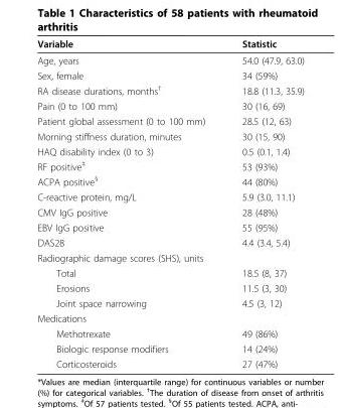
<table><thead><tr><td>Variable</td><td>Statistic</td></tr></thead><tbody><tr><td>Age, years</td><td>54.0 (47.9, 63.0)</td></tr><tr><td>Sex, female</td><td>34 (59%)</td></tr><tr><td>RA disease durations, months<sup>†</sup></td><td>18.8 (11.3, 35.9)</td></tr><tr><td>Pain (0 to 100 mm)</td><td>30 (16, 69)</td></tr><tr><td>Patient global assessment (0 to 100 mm)</td><td>28.5 (12, 63)</td></tr><tr><td>Morning stiffness duration, minutes</td><td>30 (15, 90)</td></tr><tr><td>HAQ disability index (0 to 3)</td><td>0.5 (0.1, 1.4)</td></tr><tr><td>RF positive<sup>‡</sup></td><td>53 (93%)</td></tr><tr><td>ACPA positive<sup>§</sup></td><td>44 (80%)</td></tr><tr><td>C-reactive protein, mg/L</td><td>5.9 (3.0, 11.1)</td></tr><tr><td>CMV IgG positive</td><td>28 (48%)</td></tr><tr><td>EBV IgG positive</td><td>55 (95%)</td></tr><tr><td>DAS28</td><td>4.4 (3.4, 5.4)</td></tr><tr><td colspan="2">Radiographic damage scores (SHS), units</td></tr><tr><td>Total</td><td>18.5 (8, 37)</td></tr><tr><td>Erosions</td><td>11.5 (3, 30)</td></tr><tr><td>Joint space narrowing</td><td>4.5 (3, 12)</td></tr><tr><td colspan="2">Medications</td></tr><tr><td>Methotrexate</td><td>49 (86%)</td></tr><tr><td>Biologic response modifiers</td><td>14 (24%)</td></tr><tr><td>Corticosteroids</td><td>27 (47%)</td></tr></tbody></table>